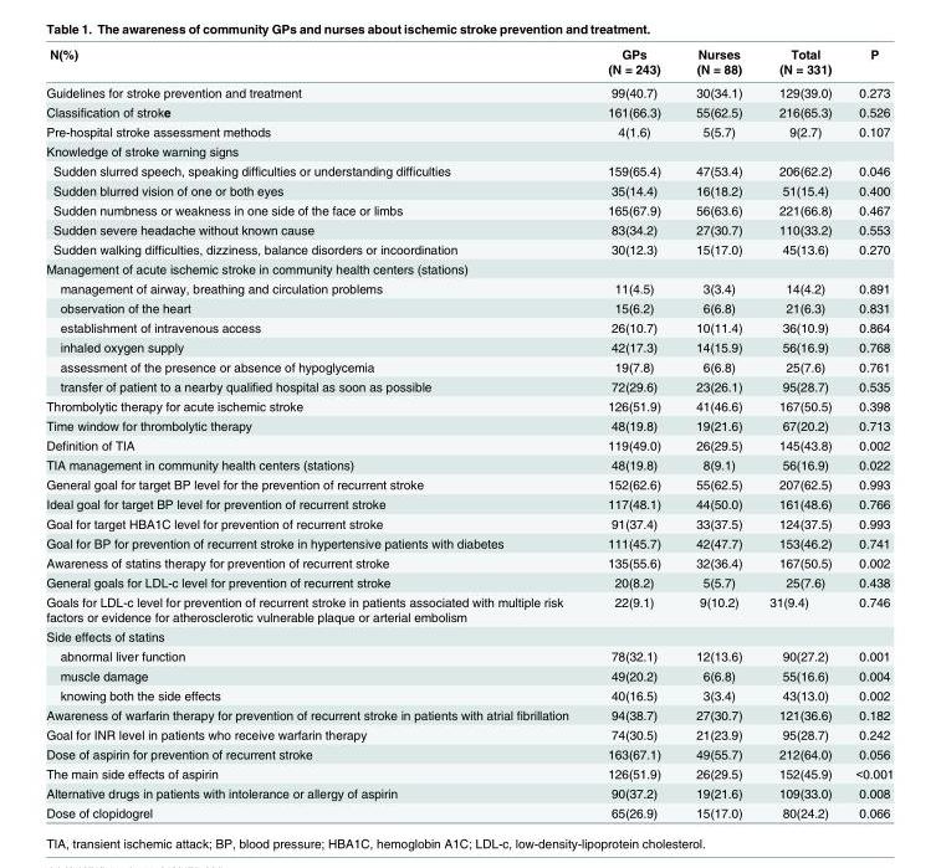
<table><thead><tr><td>N(%)</td><td>GPs (N = 243)</td><td>Nurses (N = 88)</td><td>Total (N = 331)</td><td>P</td></tr></thead><tbody><tr><td>Guidelines for stroke prevention and treatment</td><td>99(40.7)</td><td>30(34.1)</td><td>129(39.0)</td><td>0.273</td></tr><tr><td>Classification of stroke</td><td>161(66.3)</td><td>55(62.5)</td><td>216(65.3)</td><td>0.526</td></tr><tr><td>Pre-hospital stroke assessment methods</td><td>4(1.6)</td><td>5(5.7)</td><td>9(2.7)</td><td>0.107</td></tr><tr><td colspan="5">Knowledge of stroke warning signs</td></tr><tr><td>Sudden slurred speech, speaking difficulties or understanding difficulties</td><td>159(65.4)</td><td>47(53.4)</td><td>206(62.2)</td><td>0.046</td></tr><tr><td>Sudden blurred vision of one or both eyes</td><td>35(14.4)</td><td>16(18.2)</td><td>51(15.4)</td><td>0.400</td></tr><tr><td>Sudden numbness or weakness in one side of the face or limbs</td><td>165(67.9)</td><td>56(63.6)</td><td>221(66.8)</td><td>0.467</td></tr><tr><td>Sudden severe headache without known cause</td><td>83(34.2)</td><td>27(30.7)</td><td>110(33.2)</td><td>0.553</td></tr><tr><td>Sudden walking difficulties, dizziness, balance disorders or incoordination</td><td>30(12.3)</td><td>15(17.0)</td><td>45(13.6)</td><td>0.270</td></tr><tr><td colspan="5">Management of acute ischemic stroke in community health centers (stations)</td></tr><tr><td>management of airway, breathing and circulation problems</td><td>11(4.5)</td><td>3(3.4)</td><td>14(4.2)</td><td>0.891</td></tr><tr><td>observation of the heart</td><td>15(6.2)</td><td>6(6.8)</td><td>21(6.3)</td><td>0.831</td></tr><tr><td>establishment of intravenous access</td><td>26(10.7)</td><td>10(11.4)</td><td>36(10.9)</td><td>0.864</td></tr><tr><td>inhaled oxygen supply</td><td>42(17.3)</td><td>14(15.9)</td><td>56(16.9)</td><td>0.768</td></tr><tr><td>assessment of the presence or absence of hypoglycemia</td><td>19(7.8)</td><td>6(6.8)</td><td>25(7.6)</td><td>0.761</td></tr><tr><td>transfer of patient to a nearby qualified hospital as soon as possible</td><td>72(29.6)</td><td>23(26.1)</td><td>95(28.7)</td><td>0.535</td></tr><tr><td>Thrombolytic therapy for acute ischemic stroke</td><td>126(51.9)</td><td>41(46.6)</td><td>167(50.5)</td><td>0.398</td></tr><tr><td>Time window for thrombolytic therapy</td><td>48(19.8)</td><td>19(21.6)</td><td>67(20.2)</td><td>0.713</td></tr><tr><td>Definition of TIA</td><td>119(49.0)</td><td>26(29.5)</td><td>145(43.8)</td><td>0.002</td></tr><tr><td>TIA management in community health centers (stations)</td><td>48(19.8)</td><td>8(9.1)</td><td>56(16.9)</td><td>0.022</td></tr><tr><td>General goal for target BP level for the prevention of recurrent stroke</td><td>152(62.6)</td><td>55(62.5)</td><td>207(62.5)</td><td>0.993</td></tr><tr><td>Ideal goal for target BP level for prevention of recurrent stroke</td><td>117(48.1)</td><td>44(50.0)</td><td>161(48.6)</td><td>0.766</td></tr><tr><td>Goal for target HBA1C level for prevention of recurrent stroke</td><td>91(37.4)</td><td>33(37.5)</td><td>124(37.5)</td><td>0.993</td></tr><tr><td>Goal for BP for prevention of recurrent stroke in hypertensive patients with diabetes</td><td>111(45.7)</td><td>42(47.7)</td><td>153(46.2)</td><td>0.741</td></tr><tr><td>Awareness of statins therapy for prevention of recurrent stroke</td><td>135(55.6)</td><td>32(36.4)</td><td>167(50.5)</td><td>0.002</td></tr><tr><td>General goals for LDL-c level for prevention of recurrent stroke</td><td>20(8.2)</td><td>5(5.7)</td><td>25(7.6)</td><td>0.438</td></tr><tr><td>Goals for LDL-c level for prevention of recurrent stroke in patients associated with multiple risk factors or evidence for atherosclerotic vulnerable plaque or arterial embolism</td><td>22(9.1)</td><td>9(10.2)</td><td>31(9.4)</td><td>0.746</td></tr><tr><td colspan="5">Side effects of statins</td></tr><tr><td>abnormal liver function</td><td>78(32.1)</td><td>12(13.6)</td><td>90(27.2)</td><td>0.001</td></tr><tr><td>muscle damage</td><td>49(20.2)</td><td>6(6.8)</td><td>55(16.6)</td><td>0.004</td></tr><tr><td>knowing both the side effects</td><td>40(16.5)</td><td>3(3.4)</td><td>43(13.0)</td><td>0.002</td></tr><tr><td>Awareness of warfarin therapy for prevention of recurrent stroke in patients with atrial fibrillation</td><td>94(38.7)</td><td>27(30.7)</td><td>121(36.6)</td><td>0.182</td></tr><tr><td>Goal for INR level in patients who receive warfarin therapy</td><td>74(30.5)</td><td>21(23.9)</td><td>95(28.7)</td><td>0.242</td></tr><tr><td>Dose of aspirin for prevention of recurrent stroke</td><td>163(67.1)</td><td>49(55.7)</td><td>212(64.0)</td><td>0.056</td></tr><tr><td>The main side effects of aspirin</td><td>126(51.9)</td><td>26(29.5)</td><td>152(45.9)</td><td>&lt;0.001</td></tr><tr><td>Alternative drugs in patients with intolerance or allergy of aspirin</td><td>90(37.2)</td><td>19(21.6)</td><td>109(33.0)</td><td>0.008</td></tr><tr><td>Dose of clopidogrel</td><td>65(26.9)</td><td>15(17.0)</td><td>80(24.2)</td><td>0.066</td></tr></tbody></table>